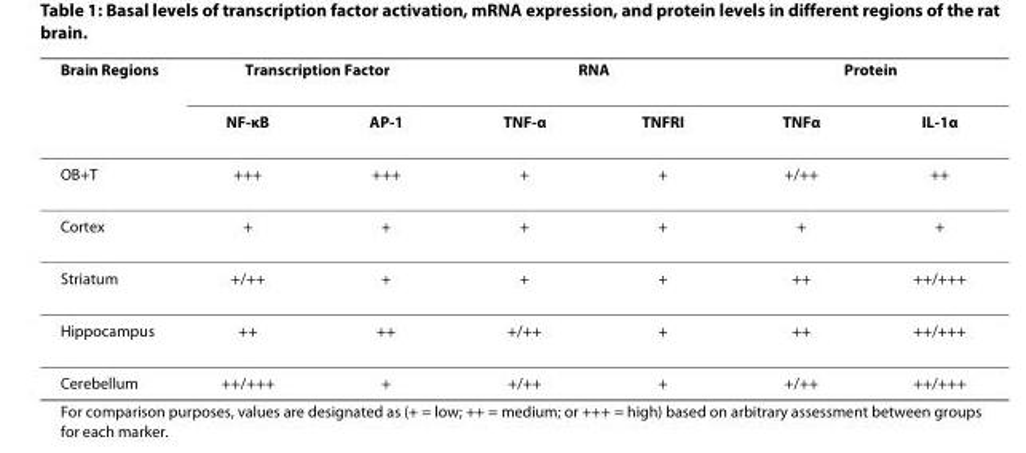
<table><thead><tr><td rowspan="2">Brain Regions</td><td colspan="2">Transcription Factor</td><td colspan="2">RNA</td><td colspan="2">Protein</td></tr><tr><td>NF-κB</td><td>AP-1</td><td>TNF-α</td><td>TNFRI</td><td>TNFα</td><td>IL-1α</td></tr></thead><tbody><tr><td>OB+T</td><td>+++</td><td>+++</td><td>+</td><td>+</td><td>+/++</td><td>++</td></tr><tr><td>Cortex</td><td>+</td><td>+</td><td>+</td><td>+</td><td>+</td><td>+</td></tr><tr><td>Striatum</td><td>+/++</td><td>+</td><td>+</td><td>+</td><td>++</td><td>++/+++</td></tr><tr><td>Hippocampus</td><td>++</td><td>++</td><td>+/++</td><td>+</td><td>++</td><td>++/+++</td></tr><tr><td>Cerebellum</td><td>++/+++</td><td>+</td><td>+/++</td><td>+</td><td>+/++</td><td>++/+++</td></tr></tbody></table>